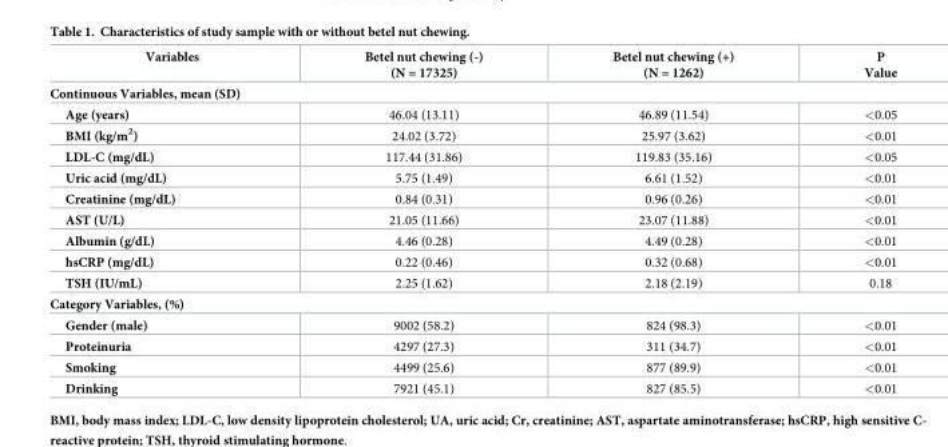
<table><thead><tr><td>Variables</td><td>Betel nut chewing (-) (N = 17325)</td><td>Betel nut chewing (+) (N = 1262)</td><td>P Value</td></tr></thead><tbody><tr><td colspan="4">Continuous Variables, mean (SD)</td></tr><tr><td>Age (years)</td><td>46.04 (13.11)</td><td>46.89 (11.54)</td><td>&lt;0.05</td></tr><tr><td>BMI (kg/m<sup>2</sup>)</td><td>24.02 (3.72)</td><td>25.97 (3.62)</td><td>&lt;0.01</td></tr><tr><td>LDL-C (mg/dL)</td><td>117.44 (31.86)</td><td>119.83 (35.16)</td><td>&lt;0.05</td></tr><tr><td>Uric acid (mg/dL)</td><td>5.75 (1.49)</td><td>6.61 (1.52)</td><td>&lt;0.01</td></tr><tr><td>Creatinine (mg/dL)</td><td>0.84 (0.31)</td><td>0.96 (0.26)</td><td>&lt;0.01</td></tr><tr><td>AST (U/L)</td><td>21.05 (11.66)</td><td>23.07 (11.88)</td><td>&lt;0.01</td></tr><tr><td>Albumin (g/dL)</td><td>4.46 (0.28)</td><td>4.49 (0.28)</td><td>&lt;0.01</td></tr><tr><td>hsCRP (mg/dL)</td><td>0.22 (0.46)</td><td>0.32 (0.68)</td><td>&lt;0.01</td></tr><tr><td>TSH (IU/mL)</td><td>2.25 (1.62)</td><td>2.18 (2.19)</td><td>0.18</td></tr><tr><td colspan="4">Category Variables, (%)</td></tr><tr><td>Gender (male)</td><td>9002 (58.2)</td><td>824 (98.3)</td><td>&lt;0.01</td></tr><tr><td>Proteinuria</td><td>4297 (27.3)</td><td>311 (34.7)</td><td>&lt;0.01</td></tr><tr><td>Smoking</td><td>4499 (25.6)</td><td>877 (89.9)</td><td>&lt;0.01</td></tr><tr><td>Drinking</td><td>7921 (45.1)</td><td>827 (85.5)</td><td>&lt;0.01</td></tr></tbody></table>